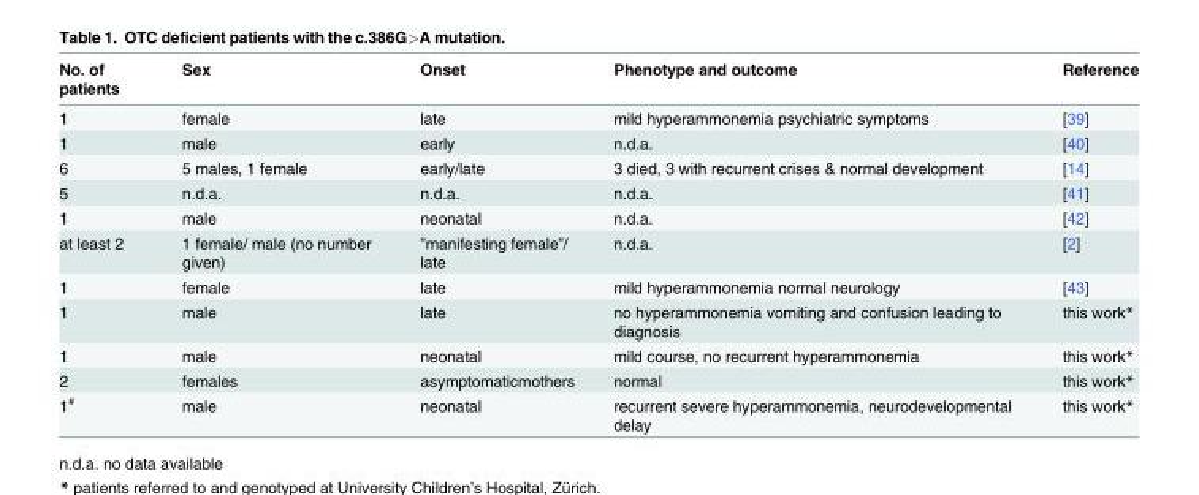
<table><thead><tr><td>No. of patients</td><td>Sex</td><td>Onset</td><td>Phenotype and outcome</td><td>Reference</td></tr></thead><tbody><tr><td>1</td><td>female</td><td>late</td><td>mild hyperammonemia psychiatric symptoms</td><td>[39]</td></tr><tr><td>1</td><td>male</td><td>early</td><td>n.d.a.</td><td>[40]</td></tr><tr><td>6</td><td>5 males, 1 female</td><td>early/late</td><td>3 died, 3 with recurrent crises &amp; normal development</td><td>[14]</td></tr><tr><td>5</td><td>n.d.a.</td><td>n.d.a.</td><td>n.d.a.</td><td>[41]</td></tr><tr><td>1</td><td>male</td><td>neonatal</td><td>n.d.a.</td><td>[42]</td></tr><tr><td>at least 2</td><td>1 female/ male (no number given)</td><td>”manifesting female”/ late</td><td>n.d.a.</td><td>[2]</td></tr><tr><td>1</td><td>female</td><td>late</td><td>mild hyperammonemia normal neurology</td><td>[43]</td></tr><tr><td>1</td><td>male</td><td>late</td><td>no hyperammonemia vomiting and confusion leading to diagnosis</td><td>this work*</td></tr><tr><td>1</td><td>male</td><td>neonatal</td><td>mild course, no recurrent hyperammonemia</td><td>this work*</td></tr><tr><td>2</td><td>females</td><td>asymptomaticmothers</td><td>normal</td><td>this work*</td></tr><tr><td>1<sup>#</sup></td><td>male</td><td>neonatal</td><td>recurrent severe hyperammonemia, neurodevelopmental delay</td><td>this work*</td></tr></tbody></table>